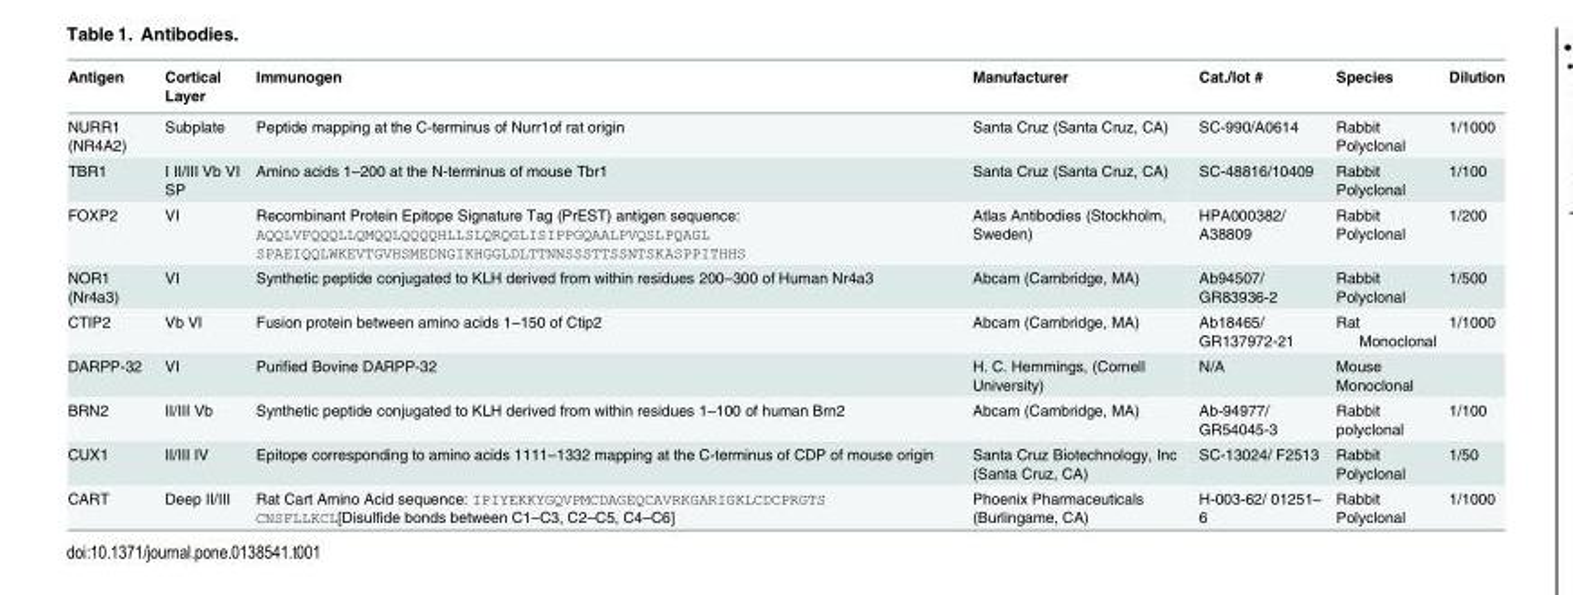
<table><thead><tr><td>Antigen</td><td>Cortical Layer</td><td>Immunogen</td><td>Manufacturer</td><td>Cat./lot #</td><td>Species</td><td>Dilution</td></tr></thead><tbody><tr><td>NURR1 (NR4A2)</td><td>Subplate</td><td>Peptide mapping at the C-terminus of Nurr1of rat origin</td><td>Santa Cruz (Santa Cruz, CA)</td><td>SC-990/A0614</td><td>Rabbit Polyclonal</td><td>1/1000</td></tr><tr><td>TBR1</td><td>I II/III Vb VI SP</td><td>Amino acids 1–200 at the N-terminus of mouse Tbr1</td><td>Santa Cruz (Santa Cruz, CA)</td><td>SC-48816/10409</td><td>Rabbit Polyclonal</td><td>1/100</td></tr><tr><td>FOXP2</td><td>VI</td><td>Recombinant Protein Epitope Signature Tag (PrEST) antigen sequence: AQQLVFQQQLLQMQQLQQQQHLLSLQRQGLISIPPGQAALPVQSLPQAGL SPAEIQQLWKEVTGVHSMEDNGIKHGGLDLTTNNSSSTTSSNTSKASPPITHHS</td><td>Atlas Antibodies (Stockholm, Sweden)</td><td>HPA000382/ A38809</td><td>Rabbit Polyclonal</td><td>1/200</td></tr><tr><td>NOR1 (Nr4a3)</td><td>VI</td><td>Synthetic peptide conjugated to KLH derived from within residues 200–300 of Human Nr4a3</td><td>Abcam (Cambridge, MA)</td><td>Ab94507/ GR83936-2</td><td>Rabbit Polyclonal</td><td>1/500</td></tr><tr><td>CTIP2</td><td>Vb VI</td><td>Fusion protein between amino acids 1–150 of Ctip2</td><td>Abcam (Cambridge, MA)</td><td>Ab18465/ GR137972-21</td><td>Rat Monoclonal</td><td>1/1000</td></tr><tr><td>DARPP-32</td><td>VI</td><td>Purified Bovine DARPP-32</td><td>H. C. Hemmings, (Cornell University)</td><td>N/A</td><td>Mouse Monoclonal</td><td></td></tr><tr><td>BRN2</td><td>II/III Vb</td><td>Synthetic peptide conjugated to KLH derived from within residues 1–100 of human Brn2</td><td>Abcam (Cambridge, MA)</td><td>Ab-94977/ GR54045-3</td><td>Rabbit polyclonal</td><td>1/100</td></tr><tr><td>CUX1</td><td>II/III IV</td><td>Epitope corresponding to amino acids 1111–1332 mapping at the C-terminus of CDP of mouse origin</td><td>Santa Cruz Biotechnology, Inc (Santa Cruz, CA)</td><td>SC-13024/ F2513</td><td>Rabbit Polyclonal</td><td>1/50</td></tr><tr><td>CART</td><td>Deep II/III</td><td>Rat Cart Amino Acid sequence: IPIYEKKYGQVPMCDAGEQCAVRKGARIGKLCDCPRGTS CNSFLLKCL[Disulfide bonds between C1–C3, C2–C5, C4–C6]</td><td>Phoenix Pharmaceuticals (Burlingame, CA)</td><td>H-003-62/ 01251– 6</td><td>Rabbit Polyclonal</td><td>1/1000</td></tr></tbody></table>